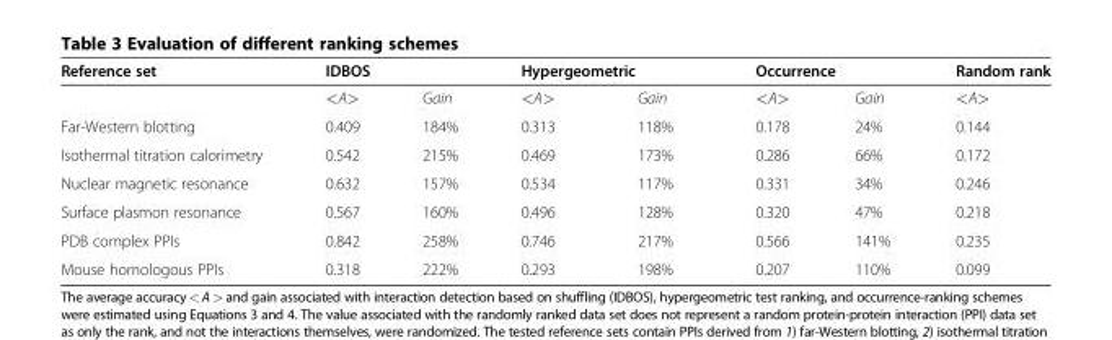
<table><thead><tr><td rowspan="2">Reference set</td><td colspan="2">IDBOS</td><td colspan="2">Hypergeometric</td><td colspan="2">Occurrence</td><td rowspan="2">Random rank &lt;A&gt;</td></tr><tr><td>&lt;A&gt;</td><td>Gain</td><td>&lt;A&gt;</td><td>Gain</td><td>&lt;A&gt;</td><td>Gain</td></tr></thead><tbody><tr><td>Far-Western blotting</td><td>0.409</td><td>184%</td><td>0.313</td><td>118%</td><td>0.178</td><td>24%</td><td>0.144</td></tr><tr><td>Isothermal titration calorimetry</td><td>0.542</td><td>215%</td><td>0.469</td><td>173%</td><td>0.286</td><td>66%</td><td>0.172</td></tr><tr><td>Nuclear magnetic resonance</td><td>0.632</td><td>157%</td><td>0.534</td><td>117%</td><td>0.331</td><td>34%</td><td>0.246</td></tr><tr><td>Surface plasmon resonance</td><td>0.567</td><td>160%</td><td>0.496</td><td>128%</td><td>0.320</td><td>47%</td><td>0.218</td></tr><tr><td>PDB complex PPIs</td><td>0.842</td><td>258%</td><td>0.746</td><td>217%</td><td>0.566</td><td>141%</td><td>0.235</td></tr><tr><td>Mouse homologous PPIs</td><td>0.318</td><td>222%</td><td>0.293</td><td>198%</td><td>0.207</td><td>110%</td><td>0.099</td></tr></tbody></table>